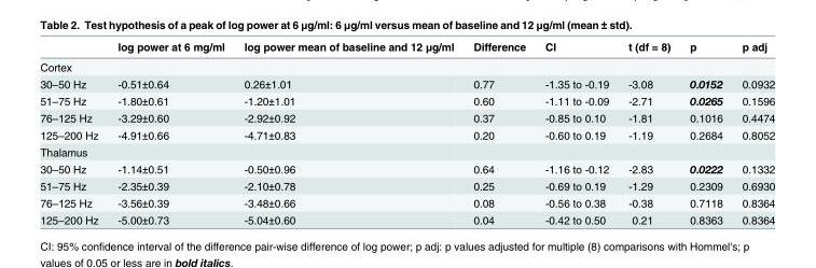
<table><thead><tr><td></td><td>log power at 6 mg/ml</td><td>log power mean of baseline and 12 μg/ml</td><td>Difference</td><td>CI</td><td>t (df = 8)</td><td>p</td><td>p adj</td></tr></thead><tbody><tr><td colspan="8">Cortex</td></tr><tr><td>30–50 Hz</td><td>-0.51±0.64</td><td>0.26±1.01</td><td>0.77</td><td>-1.35 to -0.19</td><td>-3.08</td><td>0.0152</td><td>0.0932</td></tr><tr><td>51–75 Hz</td><td>-1.80±0.61</td><td>-1.20±1.01</td><td>0.60</td><td>-1.11 to -0.09</td><td>-2.71</td><td>0.0265</td><td>0.1596</td></tr><tr><td>76–125 Hz</td><td>-3.29±0.60</td><td>-2.92±0.92</td><td>0.37</td><td>-0.85 to 0.10</td><td>-1.81</td><td>0.1016</td><td>0.4474</td></tr><tr><td>125–200 Hz</td><td>-4.91±0.66</td><td>-4.71±0.83</td><td>0.20</td><td>-0.60 to 0.19</td><td>-1.19</td><td>0.2684</td><td>0.8052</td></tr><tr><td colspan="8">Thalamus</td></tr><tr><td>30–50 Hz</td><td>-1.14±0.51</td><td>-0.50±0.96</td><td>0.64</td><td>-1.16 to -0.12</td><td>-2.83</td><td>0.0222</td><td>0.1332</td></tr><tr><td>51–75 Hz</td><td>-2.35±0.39</td><td>-2.10±0.78</td><td>0.25</td><td>-0.69 to 0.19</td><td>-1.29</td><td>0.2309</td><td>0.6930</td></tr><tr><td>76–125 Hz</td><td>-3.56±0.39</td><td>-3.48±0.66</td><td>0.08</td><td>-0.56 to 0.38</td><td>-0.38</td><td>0.7118</td><td>0.8364</td></tr><tr><td>125–200 Hz</td><td>-5.00±0.73</td><td>-5.04±0.60</td><td>0.04</td><td>-0.42 to 0.50</td><td>0.21</td><td>0.8363</td><td>0.8364</td></tr></tbody></table>